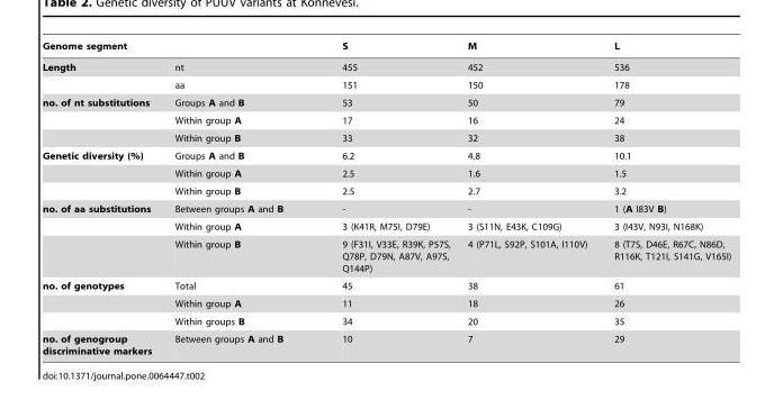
<table><thead><tr><td>Genome segment</td><td></td><td>S</td><td>M</td><td>L</td></tr></thead><tbody><tr><td rowspan="2">Length</td><td>nt</td><td>455</td><td>452</td><td>536</td></tr><tr><td>aa</td><td>151</td><td>150</td><td>178</td></tr><tr><td rowspan="3">no. of nt substitutions</td><td>Groups A and B</td><td>53</td><td>50</td><td>79</td></tr><tr><td>Within group A</td><td>17</td><td>16</td><td>24</td></tr><tr><td>Within group B</td><td>33</td><td>32</td><td>38</td></tr><tr><td rowspan="3">Genetic diversity (%)</td><td>Groups A and B</td><td>6.2</td><td>4.8</td><td>10.1</td></tr><tr><td>Within group A</td><td>2.5</td><td>1.6</td><td>1.5</td></tr><tr><td>Within group B</td><td>2.5</td><td>2.7</td><td>3.2</td></tr><tr><td rowspan="3">no. of aa substitutions</td><td>Between groups A and B</td><td>-</td><td>-</td><td>1 (A I83V B)</td></tr><tr><td>Within group A</td><td>3 (K41R, M75I, D79E)</td><td>3 (S11N, E43K, C109G)</td><td>3 (I43V, N93I, N168K)</td></tr><tr><td>Within group B</td><td>9 (F31I, V33E, R39K, P57S, Q78P, D79N, A87V, A97S, Q144P)</td><td>4 (P71L, S92P, S101A, I110V)</td><td>8 (T7S, D46E, R67C, N86D, R116K, T121I, S141G, V165I)</td></tr><tr><td rowspan="3">no. of genotypes</td><td>Total</td><td>45</td><td>38</td><td>61</td></tr><tr><td>Within group A</td><td>11</td><td>18</td><td>26</td></tr><tr><td>Within groups B</td><td>34</td><td>20</td><td>35</td></tr><tr><td>no. of genogroup discriminative markers</td><td>Between groups A and B</td><td>10</td><td>7</td><td>29</td></tr></tbody></table>